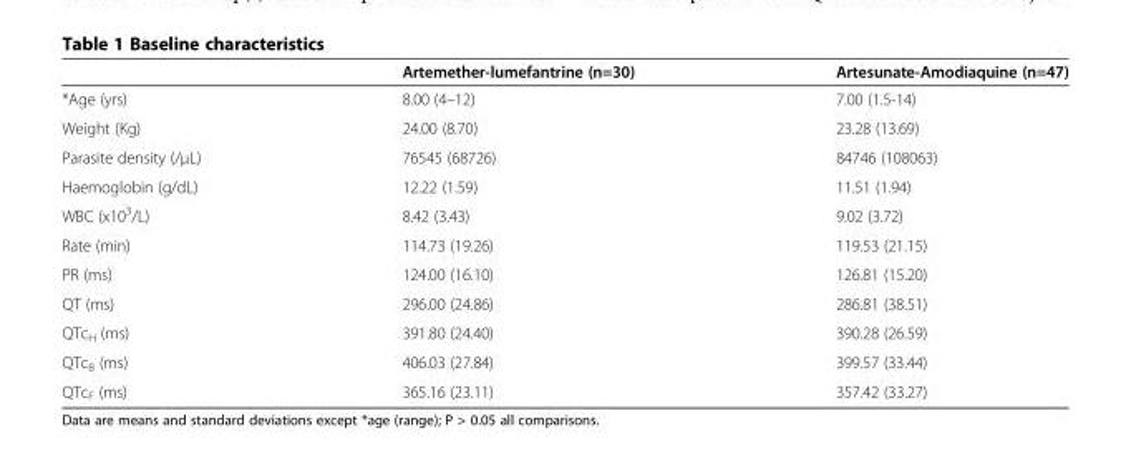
<table><thead><tr><td></td><td>Artemether-lumefantrine (n=30)</td><td>Artesunate-Amodiaquine (n=47)</td></tr></thead><tbody><tr><td>*Age (yrs)</td><td>8.00 (4–12)</td><td>7.00 (1.5-14)</td></tr><tr><td>Weight (Kg)</td><td>24.00 (8.70)</td><td>23.28 (13.69)</td></tr><tr><td>Parasite density (/μL)</td><td>76545 (68726)</td><td>84746 (108063)</td></tr><tr><td>Haemoglobin (g/dL)</td><td>12.22 (1.59)</td><td>11.51 (1.94)</td></tr><tr><td>WBC (x10<sup>3</sup>/L)</td><td>8.42 (3.43)</td><td>9.02 (3.72)</td></tr><tr><td>Rate (min)</td><td>114.73 (19.26)</td><td>119.53 (21.15)</td></tr><tr><td>PR (ms)</td><td>124.00 (16.10)</td><td>126.81 (15.20)</td></tr><tr><td>QT (ms)</td><td>296.00 (24.86)</td><td>286.81 (38.51)</td></tr><tr><td>QTc<sub>H</sub> (ms)</td><td>391.80 (24.40)</td><td>390.28 (26.59)</td></tr><tr><td>QTc<sub>B</sub> (ms)</td><td>406.03 (27.84)</td><td>399.57 (33.44)</td></tr><tr><td>QTc<sub>F</sub> (ms)</td><td>365.16 (23.11)</td><td>357.42 (33.27)</td></tr></tbody></table>